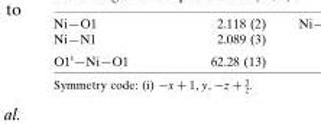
<table><tbody><tr><td>O1<sup>i</sup>—Ni—O1</td><td>62.28 (13)</td></tr></tbody></table>